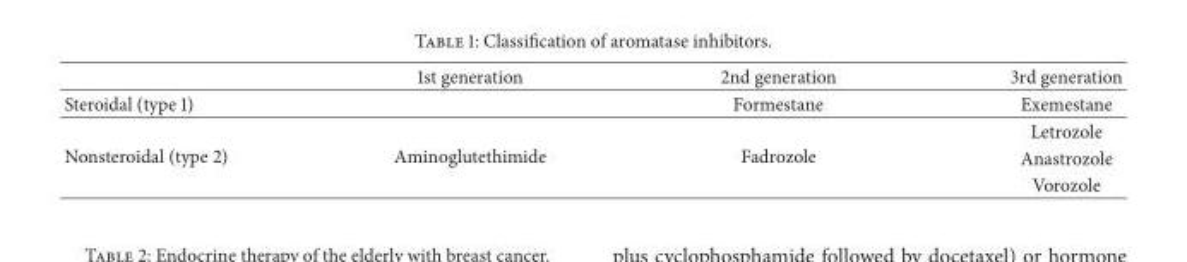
<table><thead><tr><td></td><td>1st generation</td><td>2nd generation</td><td>3rd generation</td></tr></thead><tbody><tr><td>Steroidal (type 1)</td><td></td><td>Formestane</td><td>Exemestane</td></tr><tr><td rowspan="3">Nonsteroidal (type 2)</td><td rowspan="3">Aminoglutethimide</td><td rowspan="3">Fadrozole</td><td>Letrozole</td></tr><tr><td>Anastrozole</td></tr><tr><td>Vorozole</td></tr></tbody></table>